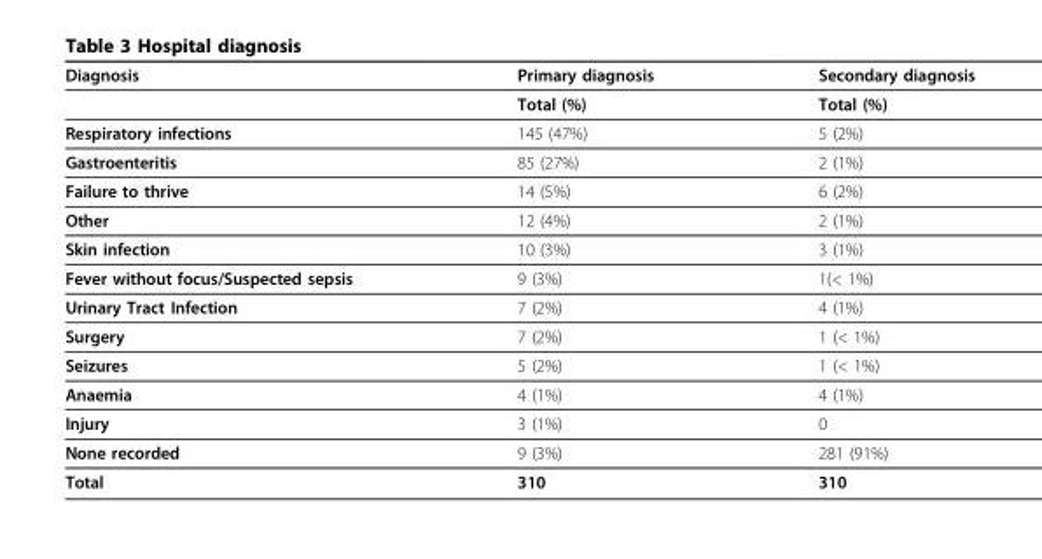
<table><thead><tr><td>Diagnosis</td><td>Primary diagnosis</td><td>Secondary diagnosis</td></tr></thead><tbody><tr><td></td><td>Total (%)</td><td>Total (%)</td></tr><tr><td>Respiratory infections</td><td>145 (47%)</td><td>5 (2%)</td></tr><tr><td>Gastroenteritis</td><td>85 (27%)</td><td>2 (1%)</td></tr><tr><td>Failure to thrive</td><td>14 (5%)</td><td>6 (2%)</td></tr><tr><td>Other</td><td>12 (4%)</td><td>2 (1%)</td></tr><tr><td>Skin infection</td><td>10 (3%)</td><td>3 (1%)</td></tr><tr><td>Fever without focus/Suspected sepsis</td><td>9 (3%)</td><td>1(&lt; 1%)</td></tr><tr><td>Urinary Tract Infection</td><td>7 (2%)</td><td>4 (1%)</td></tr><tr><td>Surgery</td><td>7 (2%)</td><td>1 (&lt; 1%)</td></tr><tr><td>Seizures</td><td>5 (2%)</td><td>1 (&lt; 1%)</td></tr><tr><td>Anaemia</td><td>4 (1%)</td><td>4 (1%)</td></tr><tr><td>Injury</td><td>3 (1%)</td><td>0</td></tr><tr><td>None recorded</td><td>9 (3%)</td><td>281 (91%)</td></tr><tr><td>Total</td><td>310</td><td>310</td></tr></tbody></table>